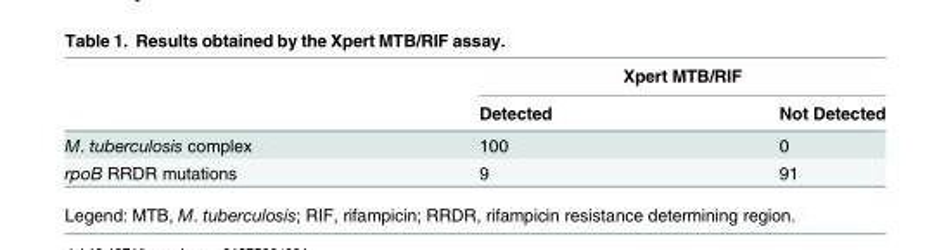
<table><thead><tr><td rowspan="2"></td><td colspan="2">Xpert MTB/RIF</td></tr><tr><td>Detected</td><td>Not Detected</td></tr></thead><tbody><tr><td>M. tuberculosis complex</td><td>100</td><td>0</td></tr><tr><td>rpoB RRDR mutations</td><td>9</td><td>91</td></tr></tbody></table>